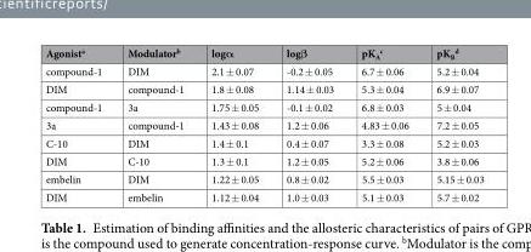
<table><thead><tr><td>Agonist<sup>a</sup></td><td>Modulator<sup>b</sup></td><td>logα</td><td>logβ</td><td>pK<sub>A</sub> <sup>c</sup></td><td>pK<sub>B</sub> <sup>d</sup></td></tr></thead><tbody><tr><td>compound-1</td><td>DIM</td><td>2.1 ± 0.07</td><td>-0.2 ± 0.05</td><td>6.7 ± 0.06</td><td>5.2 ± 0.04</td></tr><tr><td>DIM</td><td>compound-1</td><td>1.8 ± 0.08</td><td>1.14 ± 0.03</td><td>5.3 ± 0.04</td><td>6.9 ± 0.07</td></tr><tr><td>compound-1</td><td>3a</td><td>1.75 ± 0.05</td><td>-0.1 ± 0.02</td><td>6.8 ± 0.03</td><td>5 ± 0.04</td></tr><tr><td>3a</td><td>compound-1</td><td>1.43 ± 0.08</td><td>1.2 ± 0.06</td><td>4.83 ± 0.06</td><td>7.2 ± 0.05</td></tr><tr><td>C-10</td><td>DIM</td><td>1.4 ± 0.1</td><td>0.4 ± 0.07</td><td>3.3 ± 0.08</td><td>5.2 ± 0.03</td></tr><tr><td>DIM</td><td>C-10</td><td>1.3 ± 0.1</td><td>1.2 ± 0.05</td><td>5.2 ± 0.06</td><td>3.8 ± 0.06</td></tr><tr><td>embelin</td><td>DIM</td><td>1.22 ± 0.05</td><td>0.8 ± 0.02</td><td>5.5 ± 0.03</td><td>5.15 ± 0.03</td></tr><tr><td>DIM</td><td>embelin</td><td>1.12 ± 0.04</td><td>1.0 ± 0.03</td><td>5.1 ± 0.03</td><td>5.7 ± 0.02</td></tr></tbody></table>